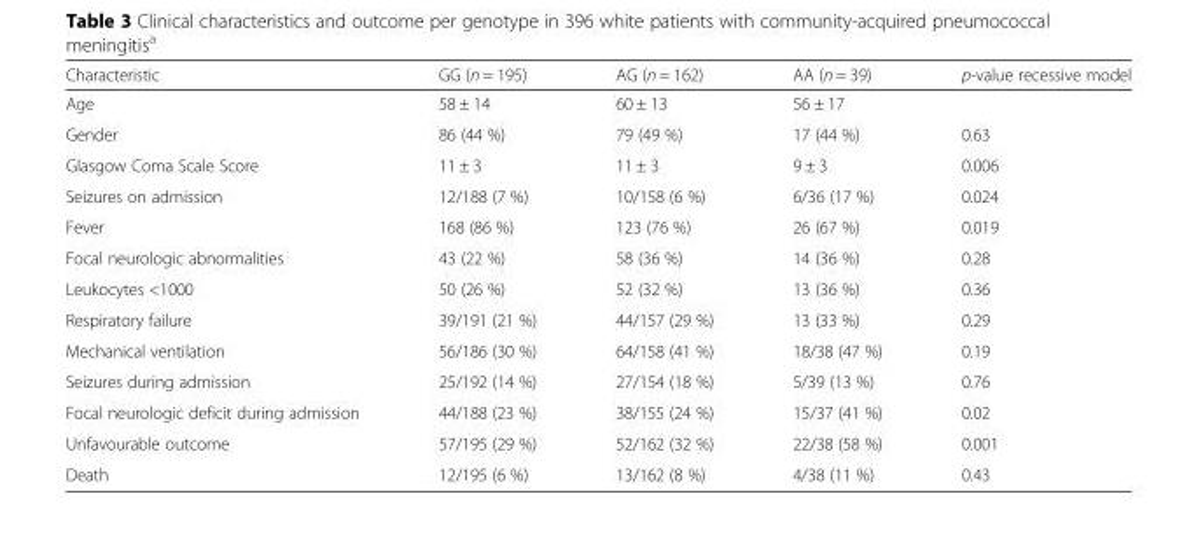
<table><thead><tr><td>Characteristic</td><td>GG (n = 195)</td><td>AG (n = 162)</td><td>AA (n = 39)</td><td>p-value recessive model</td></tr></thead><tbody><tr><td>Age</td><td>58 ± 14</td><td>60 ± 13</td><td>56 ± 17</td><td></td></tr><tr><td>Gender</td><td>86 (44 %)</td><td>79 (49 %)</td><td>17 (44 %)</td><td>0.63</td></tr><tr><td>Glasgow Coma Scale Score</td><td>11 ± 3</td><td>11 ± 3</td><td>9 ± 3</td><td>0.006</td></tr><tr><td>Seizures on admission</td><td>12/188 (7 %)</td><td>10/158 (6 %)</td><td>6/36 (17 %)</td><td>0.024</td></tr><tr><td>Fever</td><td>168 (86 %)</td><td>123 (76 %)</td><td>26 (67 %)</td><td>0.019</td></tr><tr><td>Focal neurologic abnormalities</td><td>43 (22 %)</td><td>58 (36 %)</td><td>14 (36 %)</td><td>0.28</td></tr><tr><td>Leukocytes &lt;1000</td><td>50 (26 %)</td><td>52 (32 %)</td><td>13 (36 %)</td><td>0.36</td></tr><tr><td>Respiratory failure</td><td>39/191 (21 %)</td><td>44/157 (29 %)</td><td>13 (33 %)</td><td>0.29</td></tr><tr><td>Mechanical ventilation</td><td>56/186 (30 %)</td><td>64/158 (41 %)</td><td>18/38 (47 %)</td><td>0.19</td></tr><tr><td>Seizures during admission</td><td>25/192 (14 %)</td><td>27/154 (18 %)</td><td>5/39 (13 %)</td><td>0.76</td></tr><tr><td>Focal neurologic deficit during admission</td><td>44/188 (23 %)</td><td>38/155 (24 %)</td><td>15/37 (41 %)</td><td>0.02</td></tr><tr><td>Unfavourable outcome</td><td>57/195 (29 %)</td><td>52/162 (32 %)</td><td>22/38 (58 %)</td><td>0.001</td></tr><tr><td>Death</td><td>12/195 (6 %)</td><td>13/162 (8 %)</td><td>4/38 (11 %)</td><td>0.43</td></tr></tbody></table>